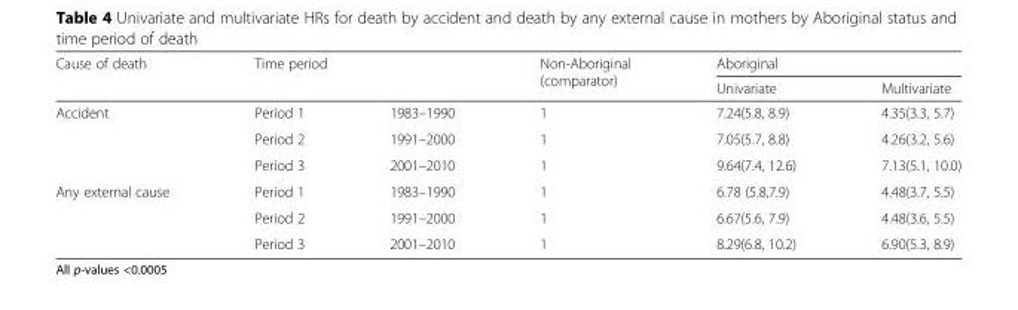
<table><thead><tr><td rowspan="2">Cause of death</td><td colspan="2">Time period</td><td rowspan="2">Non-Aboriginal (comparator)</td><td colspan="2">Aboriginal</td></tr><tr><td></td><td></td><td>Univariate</td><td>Multivariate</td></tr></thead><tbody><tr><td rowspan="3">Accident</td><td>Period 1</td><td>1983–1990</td><td>1</td><td>7.24(5.8, 8.9)</td><td>4.35(3.3, 5.7)</td></tr><tr><td>Period 2</td><td>1991–2000</td><td>1</td><td>7.05(5.7, 8.8)</td><td>4.26(3.2, 5.6)</td></tr><tr><td>Period 3</td><td>2001–2010</td><td>1</td><td>9.64(7.4, 12.6)</td><td>7.13(5.1, 10.0)</td></tr><tr><td rowspan="3">Any external cause</td><td>Period 1</td><td>1983–1990</td><td>1</td><td>6.78 (5.8,7.9)</td><td>4.48(3.7, 5.5)</td></tr><tr><td>Period 2</td><td>1991–2000</td><td>1</td><td>6.67(5.6, 7.9)</td><td>4.48(3.6, 5.5)</td></tr><tr><td>Period 3</td><td>2001–2010</td><td>1</td><td>8.29(6.8, 10.2)</td><td>6.90(5.3, 8.9)</td></tr></tbody></table>